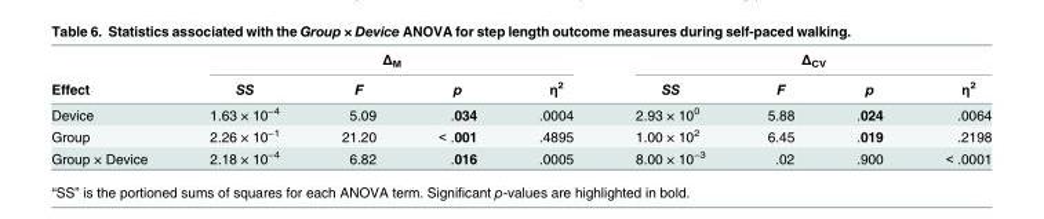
<table><thead><tr><td rowspan="2">Effect</td><td colspan="4">Δ<sub>M</sub></td><td colspan="4">Δ<sub>CV</sub></td></tr><tr><td>SS</td><td>F</td><td>p</td><td>η<sup>2</sup></td><td>SS</td><td>F</td><td>p</td><td>η<sup>2</sup></td></tr></thead><tbody><tr><td>Device</td><td>1.63 × 10<sup>−4</sup></td><td>5.09</td><td>.034</td><td>.0004</td><td>2.93 × 10<sup>0</sup></td><td>5.88</td><td>.024</td><td>.0064</td></tr><tr><td>Group</td><td>2.26 × 10<sup>−1</sup></td><td>21.20</td><td>&lt; .001</td><td>.4895</td><td>1.00 × 10<sup>2</sup></td><td>6.45</td><td>.019</td><td>.2198</td></tr><tr><td>Group × Device</td><td>2.18 × 10<sup>−4</sup></td><td>6.82</td><td>.016</td><td>.0005</td><td>8.00 × 10<sup>−3</sup></td><td>.02</td><td>.900</td><td>&lt; .0001</td></tr></tbody></table>